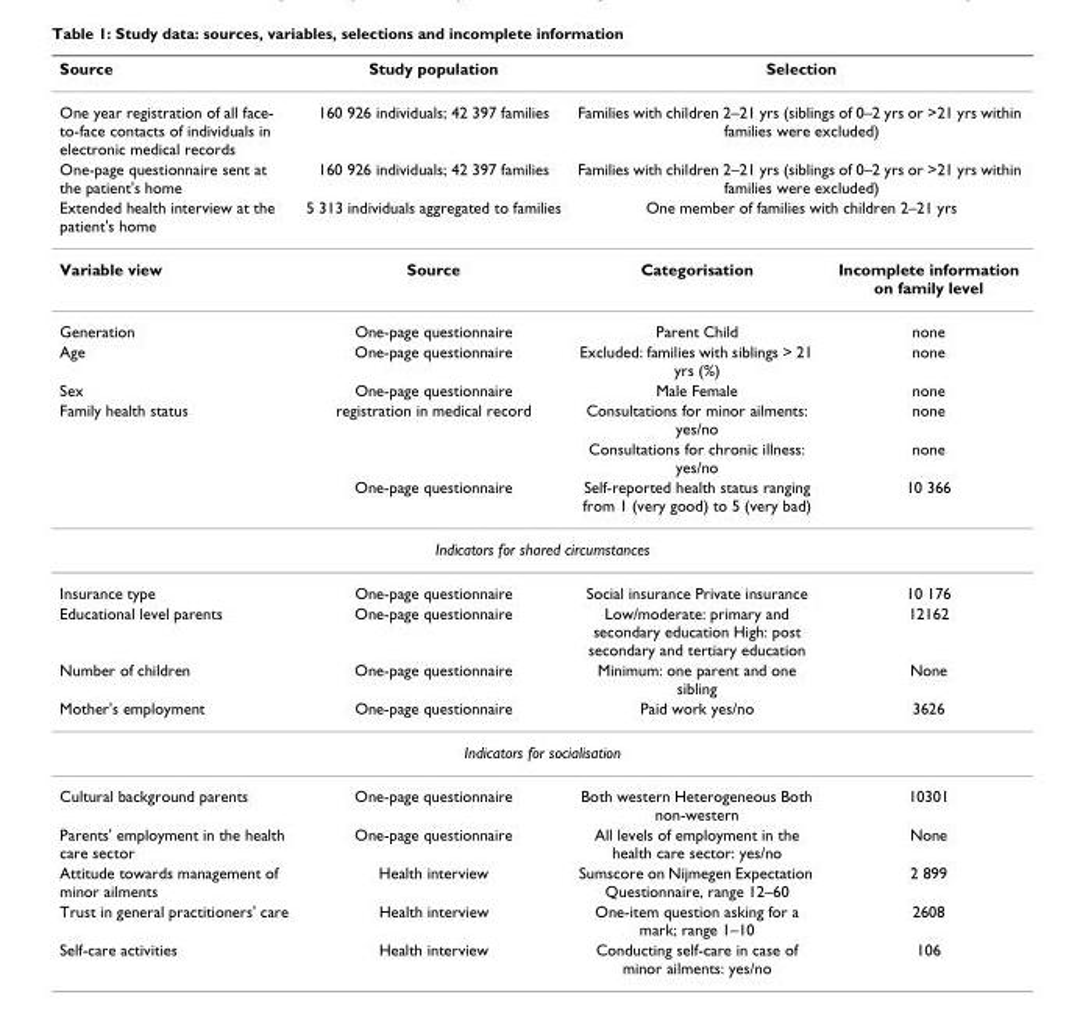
<table><thead><tr><td>Source</td><td>Study population</td><td colspan="2">Selection</td></tr></thead><tbody><tr><td>One year registration of all face- to-face contacts of individuals in electronic medical records</td><td>160 926 individuals; 42 397 families</td><td colspan="2">Families with children 2–21 yrs (siblings of 0–2 yrs or &gt;21 yrs within families were excluded)</td></tr><tr><td>One-page questionnaire sent at the patient&#x27;s home</td><td>160 926 individuals; 42 397 families</td><td colspan="2">Families with children 2–21 yrs (siblings of 0–2 yrs or &gt;21 yrs within families were excluded)</td></tr><tr><td>Extended health interview at the patient&#x27;s home</td><td>5 313 individuals aggregated to families</td><td colspan="2">One member of families with children 2–21 yrs</td></tr><tr><td>Variable view</td><td>Source</td><td>Categorisation</td><td>Incomplete information on family level</td></tr><tr><td>Generation</td><td>One-page questionnaire</td><td>Parent Child</td><td>none</td></tr><tr><td>Age</td><td>One-page questionnaire</td><td>Excluded: families with siblings &gt; 21 yrs (%)</td><td>none</td></tr><tr><td>Sex</td><td>One-page questionnaire</td><td>Male Female</td><td>none</td></tr><tr><td rowspan="3">Family health status</td><td>registration in medical record</td><td>Consultations for minor ailments: yes/no</td><td>none</td></tr><tr><td></td><td>Consultations for chronic illness: yes/no</td><td>none</td></tr><tr><td>One-page questionnaire</td><td>Self-reported health status ranging from 1 (very good) to 5 (very bad)</td><td>10 366</td></tr><tr><td colspan="4">Indicators for shared circumstances</td></tr><tr><td>Insurance type</td><td>One-page questionnaire</td><td>Social insurance Private insurance</td><td>10 176</td></tr><tr><td>Educational level parents</td><td>One-page questionnaire</td><td>Low/moderate: primary and secondary education High: post secondary and tertiary education</td><td>12162</td></tr><tr><td>Number of children</td><td>One-page questionnaire</td><td>Minimum: one parent and one sibling</td><td>None</td></tr><tr><td>Mother&#x27;s employment</td><td>One-page questionnaire</td><td>Paid work yes/no</td><td>3626</td></tr><tr><td colspan="4">Indicators for socialisation</td></tr><tr><td>Cultural background parents</td><td>One-page questionnaire</td><td>Both western Heterogeneous Both non-western</td><td>10301</td></tr><tr><td>Parents&#x27; employment in the health care sector</td><td>One-page questionnaire</td><td>All levels of employment in the health care sector: yes/no</td><td>None</td></tr><tr><td>Attitude towards management of minor ailments</td><td>Health interview</td><td>Sumscore on Nijmegen Expectation Questionnaire, range 12–60</td><td>2 899</td></tr><tr><td>Trust in general practitioners&#x27; care</td><td>Health interview</td><td>One-item question asking for a mark; range 1–10</td><td>2608</td></tr><tr><td>Self-care activities</td><td>Health interview</td><td>Conducting self-care in case of minor ailments: yes/no</td><td>106</td></tr></tbody></table>